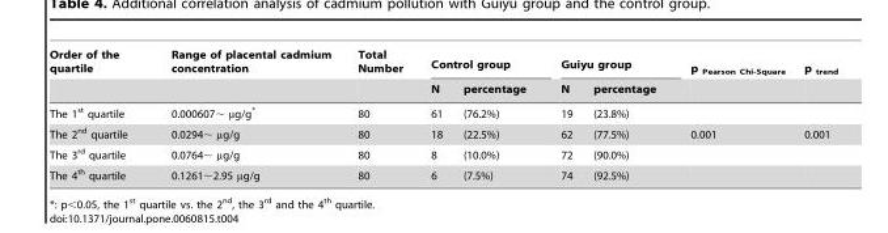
<table><thead><tr><td rowspan="2">Order of the quartile</td><td rowspan="2">Range of placental cadmium concentration</td><td rowspan="2">Total Number</td><td colspan="2">Control group</td><td colspan="2">Guiyu group</td><td rowspan="2">p <sub>Pearson Chi-Square</sub></td><td rowspan="2">p <sub>trend</sub></td></tr><tr><td>N</td><td>percentage</td><td>N</td><td>percentage</td></tr></thead><tbody><tr><td>The 1<sup>st</sup> quartile</td><td>0.000607∼ µg/g*</td><td>80</td><td>61</td><td>(76.2%)</td><td>19</td><td>(23.8%)</td><td></td><td></td></tr><tr><td>The 2<sup>nd</sup> quartile</td><td>0.0294∼ µg/g</td><td>80</td><td>18</td><td>(22.5%)</td><td>62</td><td>(77.5%)</td><td>0.001</td><td>0.001</td></tr><tr><td>The 3<sup>rd</sup> quartile</td><td>0.0764∼ µg/g</td><td>80</td><td>8</td><td>(10.0%)</td><td>72</td><td>(90.0%)</td><td></td><td></td></tr><tr><td>The 4<sup>th</sup> quartile</td><td>0.1261∼2.95 µg/g</td><td>80</td><td>6</td><td>(7.5%)</td><td>74</td><td>(92.5%)</td><td></td><td></td></tr></tbody></table>